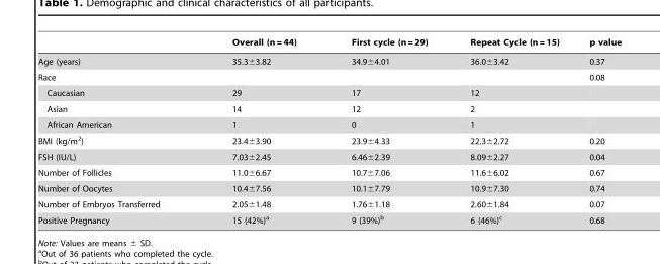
<table><thead><tr><td></td><td>Overall (n = 44)</td><td>First cycle (n = 29)</td><td>Repeat Cycle (n = 15)</td><td>p value</td></tr></thead><tbody><tr><td>Age (years)</td><td>35.3±3.82</td><td>34.9±4.01</td><td>36.0±3.42</td><td>0.37</td></tr><tr><td>Race</td><td></td><td></td><td></td><td>0.08</td></tr><tr><td>Caucasian</td><td>29</td><td>17</td><td>12</td><td></td></tr><tr><td>Asian</td><td>14</td><td>12</td><td>2</td><td></td></tr><tr><td>African American</td><td>1</td><td>0</td><td>1</td><td></td></tr><tr><td>BMI (kg/m<sup>2</sup>)</td><td>23.4±3.90</td><td>23.9±4.33</td><td>22.3±2.72</td><td>0.20</td></tr><tr><td>FSH (IU/L)</td><td>7.03±2.45</td><td>6.46±2.39</td><td>8.09±2.27</td><td>0.04</td></tr><tr><td>Number of Follicles</td><td>11.0±6.67</td><td>10.7±7.06</td><td>11.6±6.02</td><td>0.67</td></tr><tr><td>Number of Oocytes</td><td>10.4±7.56</td><td>10.1±7.79</td><td>10.9±7.30</td><td>0.74</td></tr><tr><td>Number of Embryos Transferred</td><td>2.05±1.48</td><td>1.76±1.18</td><td>2.60±1.84</td><td>0.07</td></tr><tr><td>Positive Pregnancy</td><td>15 (42%)<sup>a</sup></td><td>9 (39%)<sup>b</sup></td><td>6 (46%)<sup>c</sup></td><td>0.68</td></tr></tbody></table>